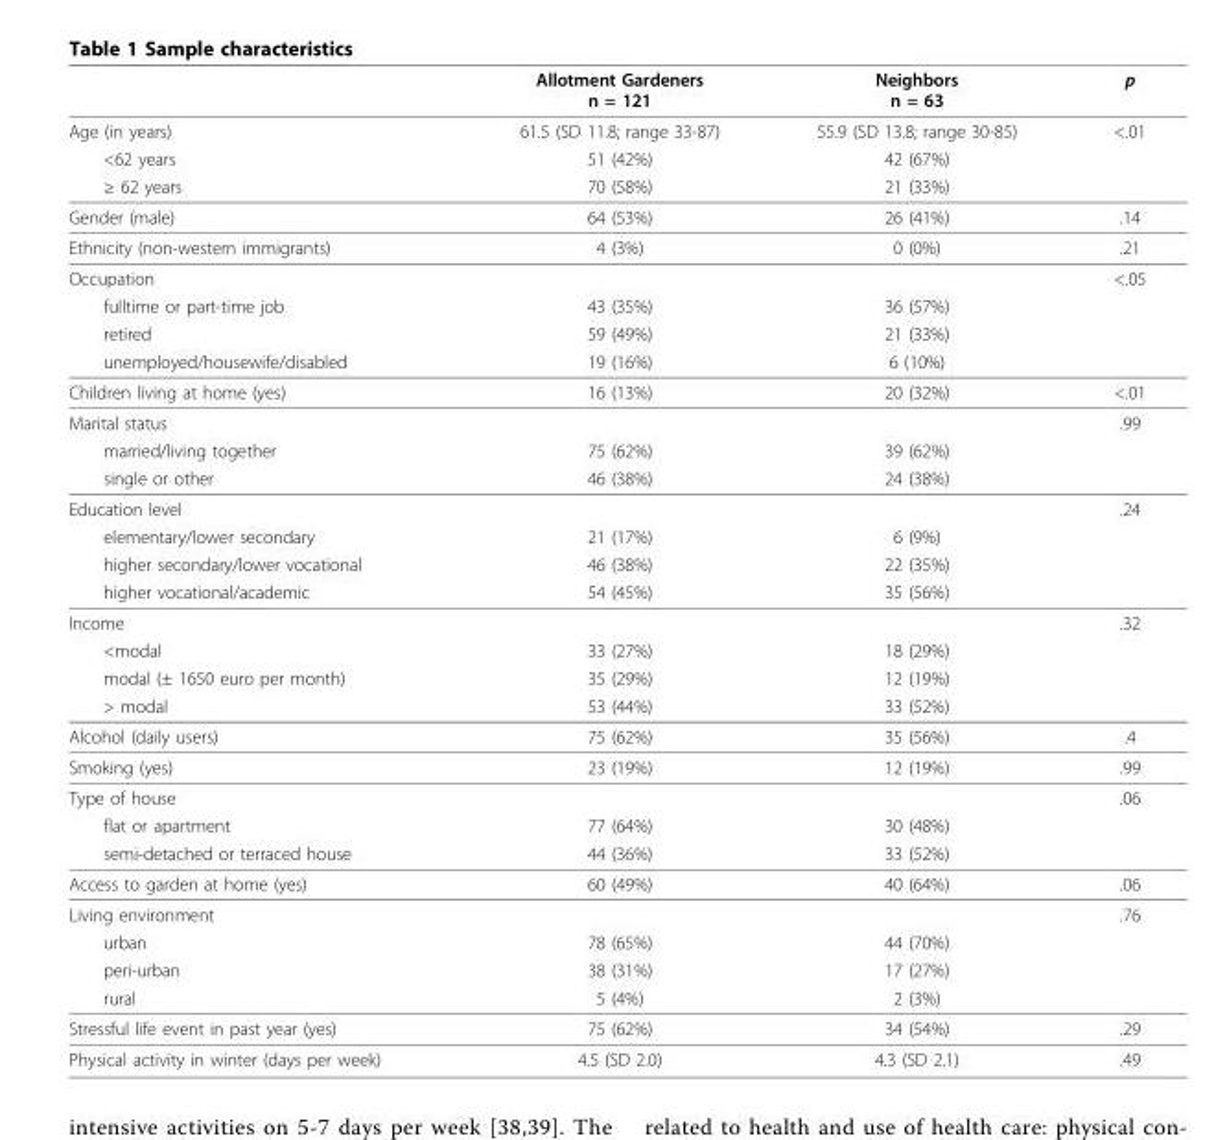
<table><thead><tr><td></td><td>Allotment Gardeners n = 121</td><td>Neighbors n = 63</td><td>p</td></tr></thead><tbody><tr><td>Age (in years)</td><td>61.5 (SD 11.8; range 33-87)</td><td>55.9 (SD 13.8; range 30-85)</td><td>&lt;.01</td></tr><tr><td>&lt;62 years</td><td>51 (42%)</td><td>42 (67%)</td><td></td></tr><tr><td>≥ 62 years</td><td>70 (58%)</td><td>21 (33%)</td><td></td></tr><tr><td>Gender (male)</td><td>64 (53%)</td><td>26 (41%)</td><td>.14</td></tr><tr><td>Ethnicity (non-western immigrants)</td><td>4 (3%)</td><td>0 (0%)</td><td>.21</td></tr><tr><td>Occupation</td><td></td><td></td><td>&lt;.05</td></tr><tr><td>fulltime or part-time job</td><td>43 (35%)</td><td>36 (57%)</td><td></td></tr><tr><td>retired</td><td>59 (49%)</td><td>21 (33%)</td><td></td></tr><tr><td>unemployed/housewife/disabled</td><td>19 (16%)</td><td>6 (10%)</td><td></td></tr><tr><td>Children living at home (yes)</td><td>16 (13%)</td><td>20 (32%)</td><td>&lt;.01</td></tr><tr><td>Marital status</td><td></td><td></td><td>.99</td></tr><tr><td>married/living together</td><td>75 (62%)</td><td>39 (62%)</td><td></td></tr><tr><td>single or other</td><td>46 (38%)</td><td>24 (38%)</td><td></td></tr><tr><td>Education level</td><td></td><td></td><td>.24</td></tr><tr><td>elementary/lower secondary</td><td>21 (17%)</td><td>6 (9%)</td><td></td></tr><tr><td>higher secondary/lower vocational</td><td>46 (38%)</td><td>22 (35%)</td><td></td></tr><tr><td>higher vocational/academic</td><td>54 (45%)</td><td>35 (56%)</td><td></td></tr><tr><td>Income</td><td></td><td></td><td>.32</td></tr><tr><td>&lt;modal</td><td>33 (27%)</td><td>18 (29%)</td><td></td></tr><tr><td>modal (± 1650 euro per month)</td><td>35 (29%)</td><td>12 (19%)</td><td></td></tr><tr><td>&gt; modal</td><td>53 (44%)</td><td>33 (52%)</td><td></td></tr><tr><td>Alcohol (daily users)</td><td>75 (62%)</td><td>35 (56%)</td><td>.4</td></tr><tr><td>Smoking (yes)</td><td>23 (19%)</td><td>12 (19%)</td><td>.99</td></tr><tr><td>Type of house</td><td></td><td></td><td>.06</td></tr><tr><td>flat or apartment</td><td>77 (64%)</td><td>30 (48%)</td><td></td></tr><tr><td>semi-detached or terraced house</td><td>44 (36%)</td><td>33 (52%)</td><td></td></tr><tr><td>Access to garden at home (yes)</td><td>60 (49%)</td><td>40 (64%)</td><td>.06</td></tr><tr><td>Living environment</td><td></td><td></td><td>.76</td></tr><tr><td>urban</td><td>78 (65%)</td><td>44 (70%)</td><td></td></tr><tr><td>peri-urban</td><td>38 (31%)</td><td>17 (27%)</td><td></td></tr><tr><td>rural</td><td>5 (4%)</td><td>2 (3%)</td><td></td></tr><tr><td>Stressful life event in past year (yes)</td><td>75 (62%)</td><td>34 (54%)</td><td>.29</td></tr><tr><td>Physical activity in winter (days per week)</td><td>4.5 (SD 2.0)</td><td>4.3 (SD 2.1)</td><td>.49</td></tr></tbody></table>